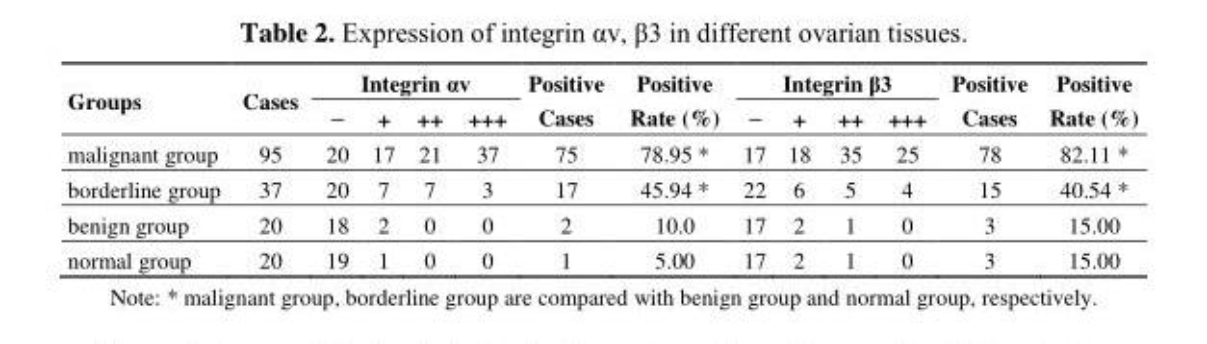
<table><thead><tr><td rowspan="2">Groups</td><td rowspan="2">Cases</td><td colspan="4">Integrin αv</td><td rowspan="2">Positive Cases</td><td rowspan="2">Positive Rate (%)</td><td colspan="4">Integrin β3</td><td rowspan="2">Positive Cases</td><td rowspan="2">Positive Rate (%)</td></tr><tr><td>−</td><td>+</td><td>++</td><td>+++</td><td>−</td><td>+</td><td>++</td><td>+++</td></tr></thead><tbody><tr><td>malignant group</td><td>95</td><td>20</td><td>17</td><td>21</td><td>37</td><td>75</td><td>78.95 *</td><td>17</td><td>18</td><td>35</td><td>25</td><td>78</td><td>82.11 *</td></tr><tr><td>borderline group</td><td>37</td><td>20</td><td>7</td><td>7</td><td>3</td><td>17</td><td>45.94 *</td><td>22</td><td>6</td><td>5</td><td>4</td><td>15</td><td>40.54 *</td></tr><tr><td>benign group</td><td>20</td><td>18</td><td>2</td><td>0</td><td>0</td><td>2</td><td>10.0</td><td>17</td><td>2</td><td>1</td><td>0</td><td>3</td><td>15.00</td></tr><tr><td>normal group</td><td>20</td><td>19</td><td>1</td><td>0</td><td>0</td><td>1</td><td>5.00</td><td>17</td><td>2</td><td>1</td><td>0</td><td>3</td><td>15.00</td></tr></tbody></table>